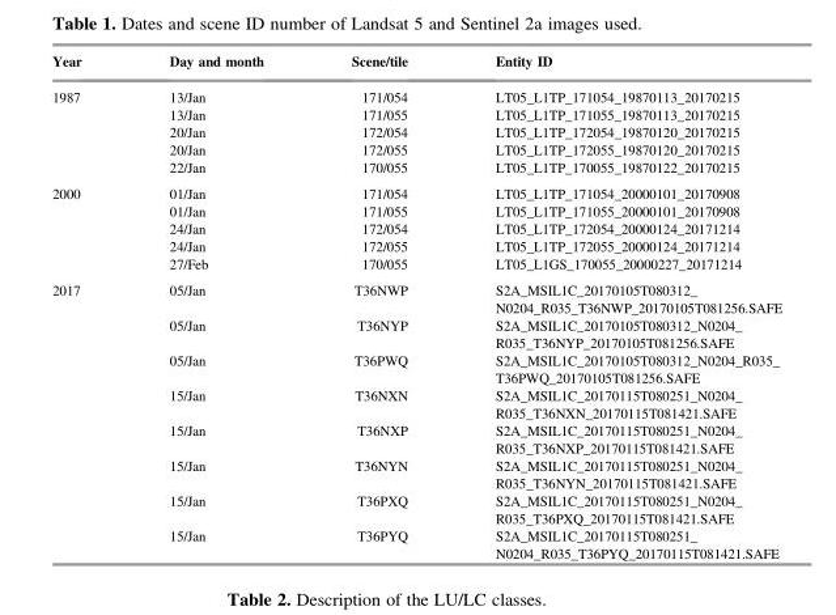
<table><thead><tr><td>Year</td><td>Day and month</td><td>Scene/tile</td><td>Entity ID</td></tr></thead><tbody><tr><td rowspan="5">1987</td><td>13/Jan</td><td>171/054</td><td>LT05_L1TP_171054_19870113_20170215</td></tr><tr><td>13/Jan</td><td>171/055</td><td>LT05_L1TP_171055_19870113_20170215</td></tr><tr><td>20/Jan</td><td>172/054</td><td>LT05_L1TP_172054_19870120_20170215</td></tr><tr><td>20/Jan</td><td>172/055</td><td>LT05_L1TP_172055_19870120_20170215</td></tr><tr><td>22/Jan</td><td>170/055</td><td>LT05_L1TP_170055_19870122_20170215</td></tr><tr><td rowspan="5">2000</td><td>01/Jan</td><td>171/054</td><td>LT05_L1TP_171054_20000101_20170908</td></tr><tr><td>01/Jan</td><td>171/055</td><td>LT05_L1TP_171055_20000101_20170908</td></tr><tr><td>24/Jan</td><td>172/054</td><td>LT05_L1TP_172054_20000124_20171214</td></tr><tr><td>24/Jan</td><td>172/055</td><td>LT05_L1TP_172055_20000124_20171214</td></tr><tr><td>27/Feb</td><td>170/055</td><td>LT05_L1GS_170055_20000227_20171214</td></tr><tr><td rowspan="8">2017</td><td>05/Jan</td><td>T36NWP</td><td>S2A_MSIL1C_20170105T080312_ N0204_R035_T36NWP_20170105T081256.SAFE</td></tr><tr><td>05/Jan</td><td>T36NYP</td><td>S2A_MSIL1C_20170105T080312_N0204_ R035_T36NYP_20170105T081256.SAFE</td></tr><tr><td>05/Jan</td><td>T36PWQ</td><td>S2A_MSIL1C_20170105T080312_N0204_R035_ T36PWQ_20170105T081256.SAFE</td></tr><tr><td>15/Jan</td><td>T36NXN</td><td>S2A_MSIL1C_20170115T080251_N0204_ R035_T36NXN_20170115T081421.SAFE</td></tr><tr><td>15/Jan</td><td>T36NXP</td><td>S2A_MSIL1C_20170115T080251_N0204_ R035_T36NXP_20170115T081421.SAFE</td></tr><tr><td>15/Jan</td><td>T36NYN</td><td>S2A_MSIL1C_20170115T080251_N0204_ R035_T36NYN_20170115T081421.SAFE</td></tr><tr><td>15/Jan</td><td>T36PXQ</td><td>S2A_MSIL1C_20170115T080251_N0204_ R035_T36PXQ_20170115T081421.SAFE</td></tr><tr><td>15/Jan</td><td>T36PYQ</td><td>S2A_MSIL1C_20170115T080251_ N0204_R035_T36PYQ_20170115T081421.SAFE</td></tr></tbody></table>